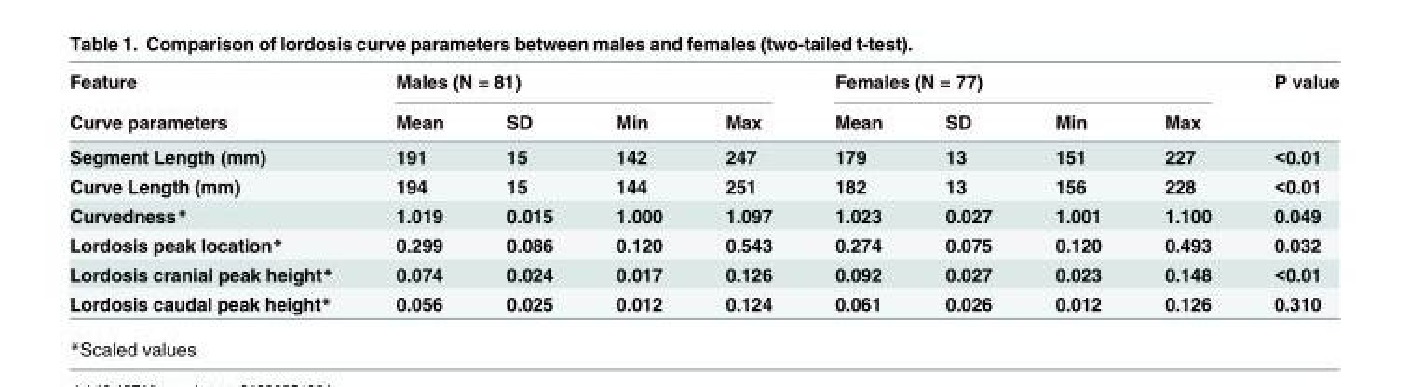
<table><thead><tr><td rowspan="2">Feature Curve parameters</td><td colspan="4">Males (N = 81)</td><td colspan="4">Females (N = 77)</td><td rowspan="2">P value</td></tr><tr><td>Mean</td><td>SD</td><td>Min</td><td>Max</td><td>Mean</td><td>SD</td><td>Min</td><td>Max</td></tr></thead><tbody><tr><td>Segment Length (mm)</td><td>191</td><td>15</td><td>142</td><td>247</td><td>179</td><td>13</td><td>151</td><td>227</td><td>&lt;0.01</td></tr><tr><td>Curve Length (mm)</td><td>194</td><td>15</td><td>144</td><td>251</td><td>182</td><td>13</td><td>156</td><td>228</td><td>&lt;0.01</td></tr><tr><td>Curvedness*</td><td>1.019</td><td>0.015</td><td>1.000</td><td>1.097</td><td>1.023</td><td>0.027</td><td>1.001</td><td>1.100</td><td>0.049</td></tr><tr><td>Lordosis peak location*</td><td>0.299</td><td>0.086</td><td>0.120</td><td>0.543</td><td>0.274</td><td>0.075</td><td>0.120</td><td>0.493</td><td>0.032</td></tr><tr><td>Lordosis cranial peak height*</td><td>0.074</td><td>0.024</td><td>0.017</td><td>0.126</td><td>0.092</td><td>0.027</td><td>0.023</td><td>0.148</td><td>&lt;0.01</td></tr><tr><td>Lordosis caudal peak height*</td><td>0.056</td><td>0.025</td><td>0.012</td><td>0.124</td><td>0.061</td><td>0.026</td><td>0.012</td><td>0.126</td><td>0.310</td></tr></tbody></table>